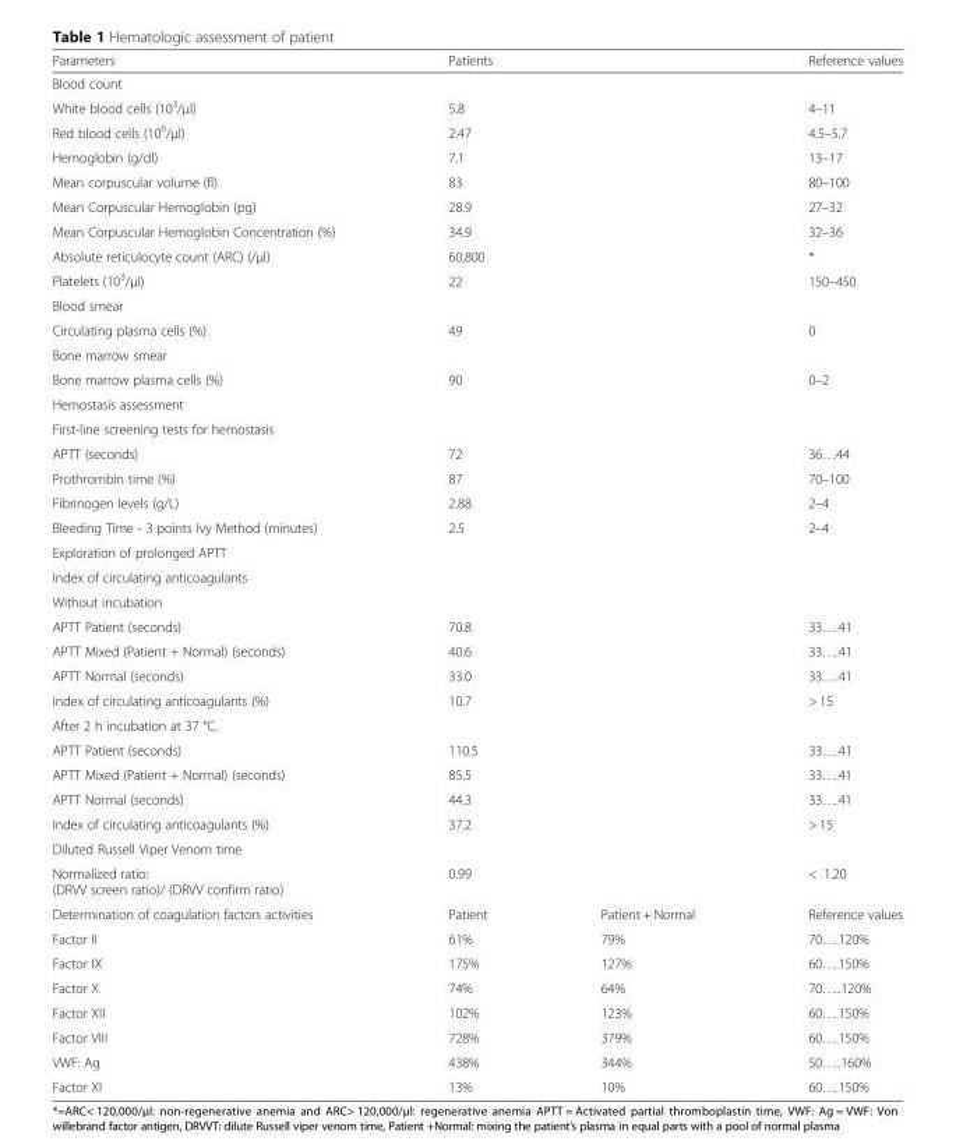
<table><thead><tr><td>Parameters</td><td colspan="2">Patients</td><td>Reference values</td></tr></thead><tbody><tr><td colspan="4">Blood count</td></tr><tr><td>White blood cells (10<sup>3</sup>/μl)</td><td colspan="2">5.8</td><td>4–11</td></tr><tr><td>Red blood cells (10<sup>6</sup>/μl)</td><td colspan="2">2.47</td><td>4.5–5.7</td></tr><tr><td>Hemoglobin (g/dl)</td><td colspan="2">7.1</td><td>13–17</td></tr><tr><td>Mean corpuscular volume (fl)</td><td colspan="2">83</td><td>80–100</td></tr><tr><td>Mean Corpuscular Hemoglobin (pg)</td><td colspan="2">28.9</td><td>27–32</td></tr><tr><td>Mean Corpuscular Hemoglobin Concentration (%)</td><td colspan="2">34.9</td><td>32–36</td></tr><tr><td>Absolute reticulocyte count (ARC) (/μl)</td><td colspan="2">60,800</td><td>*</td></tr><tr><td>Platelets (10<sup>3</sup>/μl)</td><td colspan="2">22</td><td>150–450</td></tr><tr><td colspan="4">Blood smear</td></tr><tr><td>Circulating plasma cells (%)</td><td colspan="2">49</td><td>0</td></tr><tr><td colspan="4">Bone marrow smear</td></tr><tr><td>Bone marrow plasma cells (%)</td><td colspan="2">90</td><td>0–2</td></tr><tr><td colspan="4">Hemostasis assessment</td></tr><tr><td colspan="4">First-line screening tests for hemostasis</td></tr><tr><td>APTT (seconds)</td><td colspan="2">72</td><td>36…44</td></tr><tr><td>Prothrombin time (%)</td><td colspan="2">87</td><td>70–100</td></tr><tr><td>Fibrinogen levels (g/L)</td><td colspan="2">2.88</td><td>2–4</td></tr><tr><td>Bleeding Time - 3 points Ivy Method (minutes)</td><td colspan="2">2.5</td><td>2–4</td></tr><tr><td colspan="4">Exploration of prolonged APTT</td></tr><tr><td colspan="4">Index of circulating anticoagulants</td></tr><tr><td colspan="4">Without incubation</td></tr><tr><td>APTT Patient (seconds)</td><td colspan="2">70.8</td><td>33….41</td></tr><tr><td>APTT Mixed (Patient + Normal) (seconds)</td><td colspan="2">40.6</td><td>33….41</td></tr><tr><td>APTT Normal (seconds)</td><td colspan="2">33.0</td><td>33….41</td></tr><tr><td>Index of circulating anticoagulants (%)</td><td colspan="2">10.7</td><td>&gt; 15</td></tr><tr><td colspan="4">After 2 h incubation at 37 °C.</td></tr><tr><td>APTT Patient (seconds)</td><td colspan="2">110.5</td><td>33….41</td></tr><tr><td>APTT Mixed (Patient + Normal) (seconds)</td><td colspan="2">85.5</td><td>33….41</td></tr><tr><td>APTT Normal (seconds)</td><td colspan="2">44.3</td><td>33….41</td></tr><tr><td>Index of circulating anticoagulants (%)</td><td colspan="2">37.2</td><td>&gt; 15</td></tr><tr><td colspan="4">Diluted Russell Viper Venom time</td></tr><tr><td>Normalized ratio: (DRVV screen ratio)/ (DRVV confirm ratio)</td><td colspan="2">0.99</td><td>&lt; 1.20</td></tr><tr><td>Determination of coagulation factors activities</td><td>Patient</td><td>Patient + Normal</td><td>Reference values</td></tr><tr><td>Factor II</td><td>61%</td><td>79%</td><td>70….120%</td></tr><tr><td>Factor IX</td><td>175%</td><td>127%</td><td>60….150%</td></tr><tr><td>Factor X</td><td>74%</td><td>64%</td><td>70…..120%</td></tr><tr><td>Factor XII</td><td>102%</td><td>123%</td><td>60….150%</td></tr><tr><td>Factor VIII</td><td>728%</td><td>379%</td><td>60….150%</td></tr><tr><td>VWF: Ag</td><td>438%</td><td>344%</td><td>50…..160%</td></tr><tr><td>Factor XI</td><td>13%</td><td>10%</td><td>60….150%</td></tr></tbody></table>